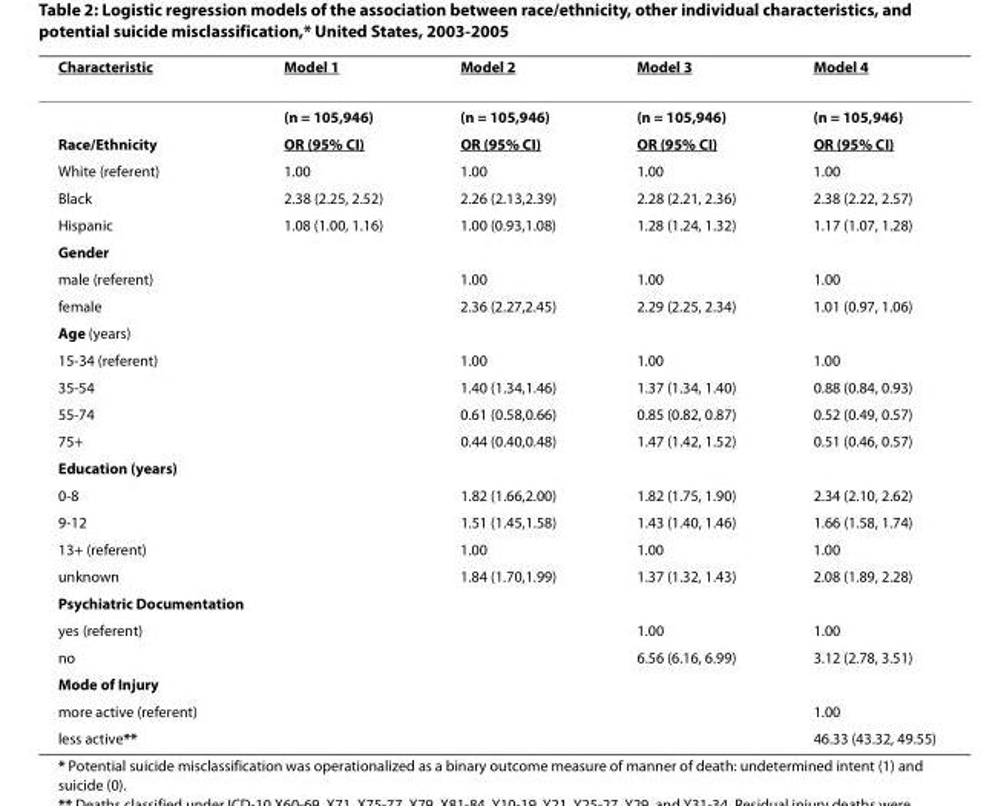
<table><thead><tr><td>Characteristic</td><td>Model 1</td><td>Model 2</td><td>Model 3</td><td>Model 4</td></tr></thead><tbody><tr><td></td><td>(n = 105,946)</td><td>(n = 105,946)</td><td>(n = 105,946)</td><td>(n = 105,946)</td></tr><tr><td>Race/Ethnicity</td><td>OR (95% CI)</td><td>OR (95% CI)</td><td>OR (95% CI)</td><td>OR (95% CI)</td></tr><tr><td>White (referent)</td><td>1.00</td><td>1.00</td><td>1.00</td><td>1.00</td></tr><tr><td>Black</td><td>2.38 (2.25, 2.52)</td><td>2.26 (2.13,2.39)</td><td>2.28 (2.21, 2.36)</td><td>2.38 (2.22, 2.57)</td></tr><tr><td>Hispanic</td><td>1.08 (1.00, 1.16)</td><td>1.00 (0.93,1.08)</td><td>1.28 (1.24, 1.32)</td><td>1.17 (1.07, 1.28)</td></tr><tr><td colspan="5">Gender</td></tr><tr><td>male (referent)</td><td></td><td>1.00</td><td>1.00</td><td>1.00</td></tr><tr><td>female</td><td></td><td>2.36 (2.27,2.45)</td><td>2.29 (2.25, 2.34)</td><td>1.01 (0.97, 1.06)</td></tr><tr><td colspan="5">Age (years)</td></tr><tr><td>15-34 (referent)</td><td></td><td>1.00</td><td>1.00</td><td>1.00</td></tr><tr><td>35-54</td><td></td><td>1.40 (1.34,1.46)</td><td>1.37 (1.34, 1.40)</td><td>0.88 (0.84, 0.93)</td></tr><tr><td>55-74</td><td></td><td>0.61 (0.58,0.66)</td><td>0.85 (0.82, 0.87)</td><td>0.52 (0.49, 0.57)</td></tr><tr><td>75+</td><td></td><td>0.44 (0.40,0.48)</td><td>1.47 (1.42, 1.52)</td><td>0.51 (0.46, 0.57)</td></tr><tr><td colspan="5">Education (years)</td></tr><tr><td>0-8</td><td></td><td>1.82 (1.66,2.00)</td><td>1.82 (1.75, 1.90)</td><td>2.34 (2.10, 2.62)</td></tr><tr><td>9-12</td><td></td><td>1.51 (1.45,1.58)</td><td>1.43 (1.40, 1.46)</td><td>1.66 (1.58, 1.74)</td></tr><tr><td>13+ (referent)</td><td></td><td>1.00</td><td>1.00</td><td>1.00</td></tr><tr><td>unknown</td><td></td><td>1.84 (1.70,1.99)</td><td>1.37 (1.32, 1.43)</td><td>2.08 (1.89, 2.28)</td></tr><tr><td colspan="5">Psychiatric Documentation</td></tr><tr><td>yes (referent)</td><td></td><td></td><td>1.00</td><td>1.00</td></tr><tr><td>no</td><td></td><td></td><td>6.56 (6.16, 6.99)</td><td>3.12 (2.78, 3.51)</td></tr><tr><td colspan="5">Mode of Injury</td></tr><tr><td>more active (referent)</td><td></td><td></td><td></td><td>1.00</td></tr><tr><td>less active**</td><td></td><td></td><td></td><td>46.33 (43.32, 49.55)</td></tr></tbody></table>